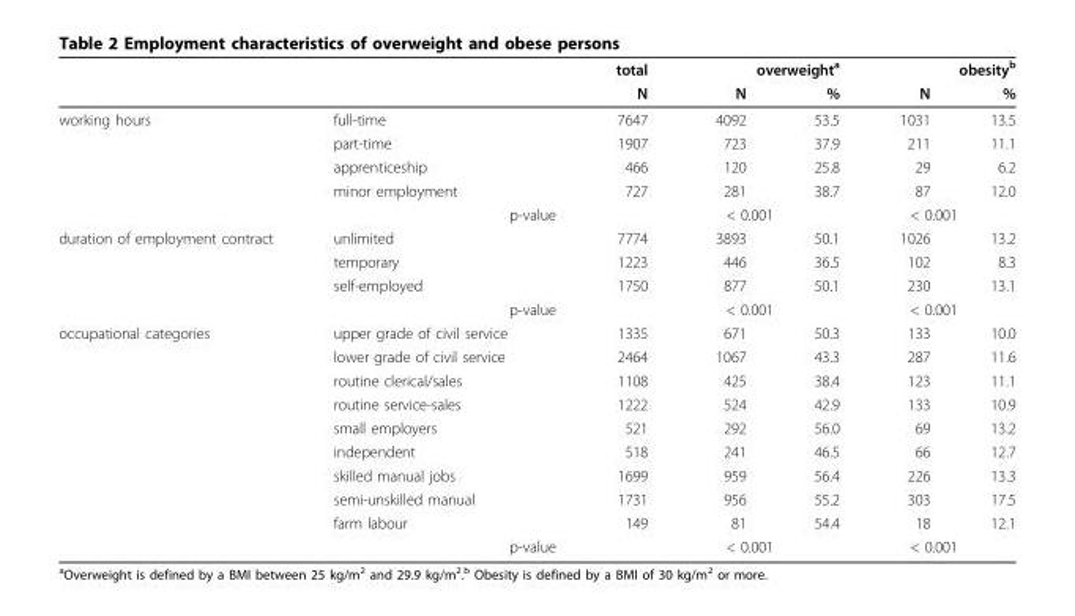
<table><thead><tr><td rowspan="2"></td><td rowspan="2"></td><td rowspan="2">total N</td><td colspan="2">overweight<sup>a</sup></td><td colspan="2">obesity<sup>b</sup></td></tr><tr><td>N</td><td>%</td><td>N</td><td>%</td></tr></thead><tbody><tr><td rowspan="5">working hours</td><td>full-time</td><td>7647</td><td>4092</td><td>53.5</td><td>1031</td><td>13.5</td></tr><tr><td>part-time</td><td>1907</td><td>723</td><td>37.9</td><td>211</td><td>11.1</td></tr><tr><td>apprenticeship</td><td>466</td><td>120</td><td>25.8</td><td>29</td><td>6.2</td></tr><tr><td>minor employment</td><td>727</td><td>281</td><td>38.7</td><td>87</td><td>12.0</td></tr><tr><td>p-value</td><td></td><td colspan="2">&lt; 0.001</td><td colspan="2">&lt; 0.001</td></tr><tr><td rowspan="4">duration of employment contract</td><td>unlimited</td><td>7774</td><td>3893</td><td>50.1</td><td>1026</td><td>13.2</td></tr><tr><td>temporary</td><td>1223</td><td>446</td><td>36.5</td><td>102</td><td>8.3</td></tr><tr><td>self-employed</td><td>1750</td><td>877</td><td>50.1</td><td>230</td><td>13.1</td></tr><tr><td>p-value</td><td></td><td colspan="2">&lt; 0.001</td><td colspan="2">&lt; 0.001</td></tr><tr><td rowspan="10">occupational categories</td><td>upper grade of civil service</td><td>1335</td><td>671</td><td>50.3</td><td>133</td><td>10.0</td></tr><tr><td>lower grade of civil service</td><td>2464</td><td>1067</td><td>43.3</td><td>287</td><td>11.6</td></tr><tr><td>routine clerical/sales</td><td>1108</td><td>425</td><td>38.4</td><td>123</td><td>11.1</td></tr><tr><td>routine service-sales</td><td>1222</td><td>524</td><td>42.9</td><td>133</td><td>10.9</td></tr><tr><td>small employers</td><td>521</td><td>292</td><td>56.0</td><td>69</td><td>13.2</td></tr><tr><td>independent</td><td>518</td><td>241</td><td>46.5</td><td>66</td><td>12.7</td></tr><tr><td>skilled manual jobs</td><td>1699</td><td>959</td><td>56.4</td><td>226</td><td>13.3</td></tr><tr><td>semi-unskilled manual</td><td>1731</td><td>956</td><td>55.2</td><td>303</td><td>17.5</td></tr><tr><td>farm labour</td><td>149</td><td>81</td><td>54.4</td><td>18</td><td>12.1</td></tr><tr><td>p-value</td><td></td><td colspan="2">&lt; 0.001</td><td colspan="2">&lt; 0.001</td></tr></tbody></table>